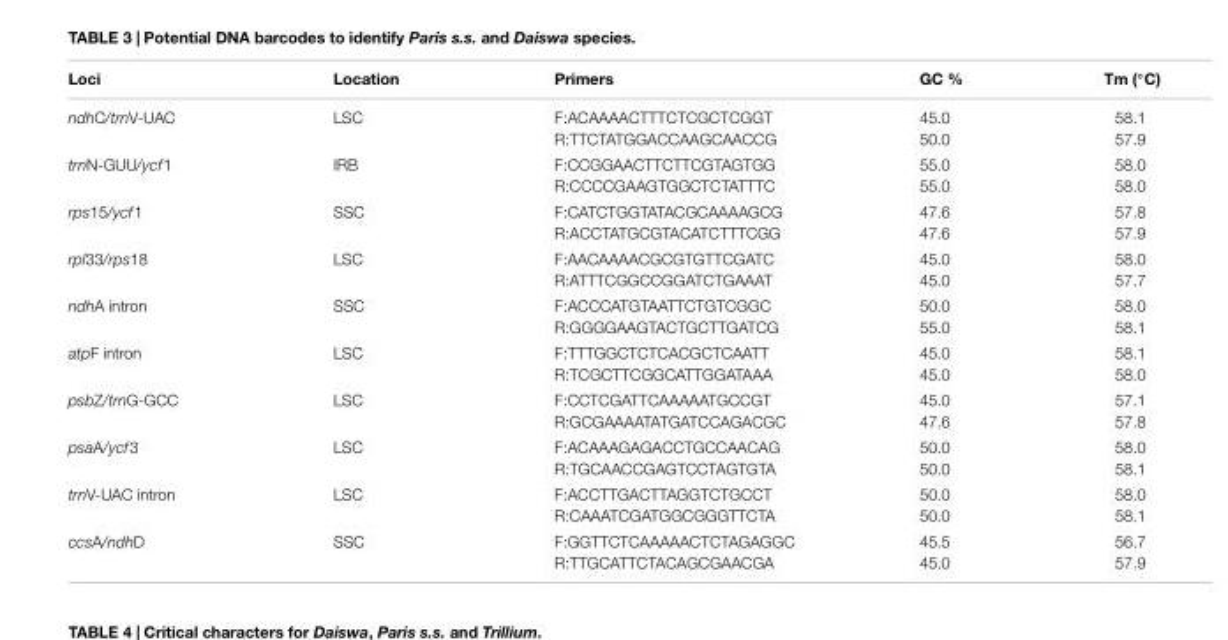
<table><thead><tr><td>Loci</td><td>Location</td><td>Primers</td><td>GC %</td><td>Tm (◦C)</td></tr></thead><tbody><tr><td>ndhC/trnV-UAC</td><td>LSC</td><td>F:ACAAAACTTTCTCGCTCGGT R:TTCTATGGACCAAGCAACCG</td><td>45.0 50.0</td><td>58.1 57.9</td></tr><tr><td>trnN-GUU/ycf1</td><td>IRB</td><td>F:CCGGAACTTCTTCGTAGTGG R:CCCCGAAGTGGCTCTATTTC</td><td>55.0 55.0</td><td>58.0 58.0</td></tr><tr><td>rps15/ycf1</td><td>SSC</td><td>F:CATCTGGTATACGCAAAAGCG R:ACCTATGCGTACATCTTTCGG</td><td>47.6 47.6</td><td>57.8 57.9</td></tr><tr><td>rpl33/rps18</td><td>LSC</td><td>F:AACAAAACGCGTGTTCGATC R:ATTTCGGCCGGATCTGAAAT</td><td>45.0 45.0</td><td>58.0 57.7</td></tr><tr><td>ndhA intron</td><td>SSC</td><td>F:ACCCATGTAATTCTGTCGGC R:GGGGAAGTACTGCTTGATCG</td><td>50.0 55.0</td><td>58.0 58.1</td></tr><tr><td>atpF intron</td><td>LSC</td><td>F:TTTGGCTCTCACGCTCAATT R:TCGCTTCGGCATTGGATAAA</td><td>45.0 45.0</td><td>58.1 58.0</td></tr><tr><td>psbZ/trnG-GCC</td><td>LSC</td><td>F:CCTCGATTCAAAAATGCCGT R:GCGAAAATATGATCCAGACGC</td><td>45.0 47.6</td><td>57.1 57.8</td></tr><tr><td>psaA/ycf3</td><td>LSC</td><td>F:ACAAAGAGACCTGCCAACAG R:TGCAACCGAGTCCTAGTGTA</td><td>50.0 50.0</td><td>58.0 58.1</td></tr><tr><td>trnV-UAC intron</td><td>LSC</td><td>F:ACCTTGACTTAGGTCTGCCT R:CAAATCGATGGCGGGTTCTA</td><td>50.0 50.0</td><td>58.0 58.1</td></tr><tr><td>ccsA/ndhD</td><td>SSC</td><td>F:GGTTCTCAAAAACTCTAGAGGC R:TTGCATTCTACAGCGAACGA</td><td>45.5 45.0</td><td>56.7 57.9</td></tr></tbody></table>